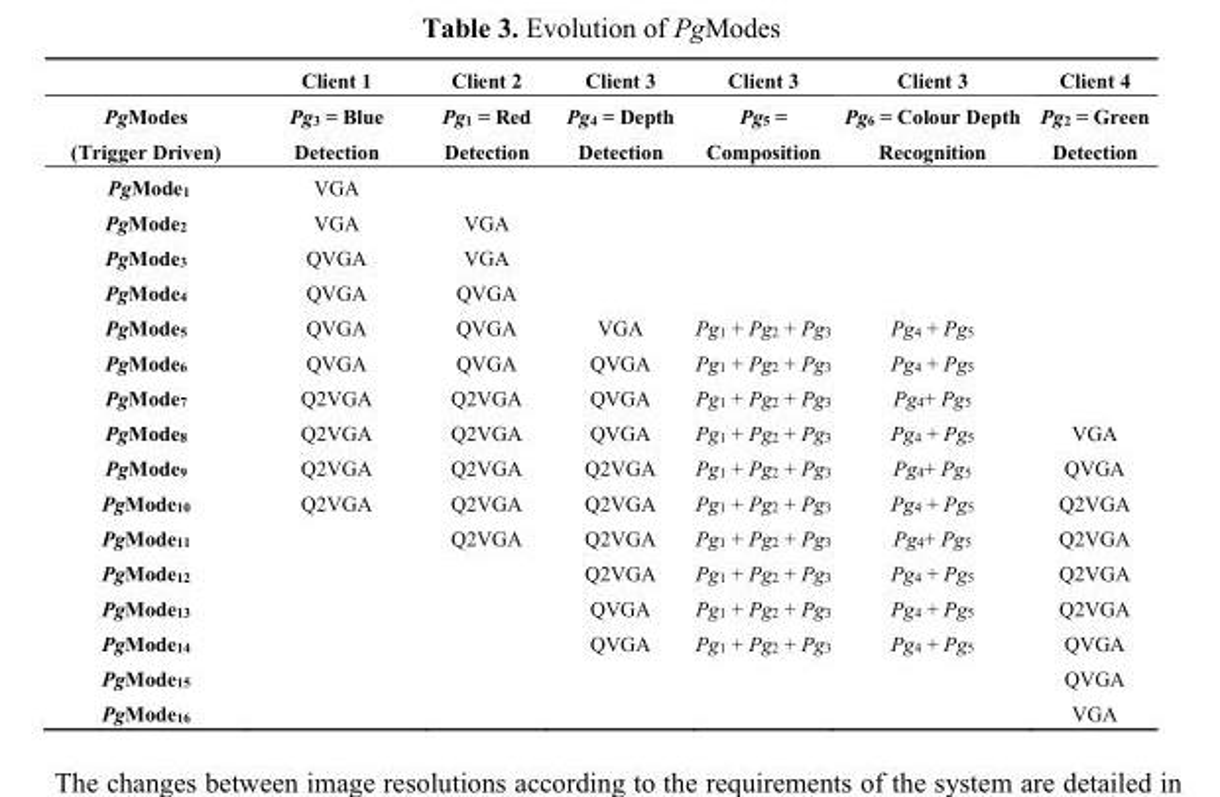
<table><thead><tr><td rowspan="2">PgModes (Trigger Driven)</td><td rowspan="2">Client 1 Pg<sub>3</sub> = Blue Detection</td><td rowspan="2">Client 2 Pg<sub>1</sub> = Red Detection</td><td rowspan="2">Client 3 Pg<sub>4</sub> = Depth Detection</td><td rowspan="2">Client 3 Pg<sub>5</sub> = Composition</td><td rowspan="2">Client 3 Pg<sub>6</sub> = Colour Depth Recognition</td><td rowspan="2">Client 4 Pg<sub>2</sub> = Green Detection</td></tr><tr></tr></thead><tbody><tr><td>PgMode<sub>1</sub></td><td>VGA</td><td></td><td></td><td></td><td></td><td></td></tr><tr><td>PgMode<sub>2</sub></td><td>VGA</td><td>VGA</td><td></td><td></td><td></td><td></td></tr><tr><td>PgMode<sub>3</sub></td><td>QVGA</td><td>VGA</td><td></td><td></td><td></td><td></td></tr><tr><td>PgMode<sub>4</sub></td><td>QVGA</td><td>QVGA</td><td></td><td></td><td></td><td></td></tr><tr><td>PgMode<sub>5</sub></td><td>QVGA</td><td>QVGA</td><td>VGA</td><td>Pg<sub>1</sub> + Pg<sub>2</sub> + Pg<sub>3</sub></td><td>Pg<sub>4</sub> + Pg<sub>5</sub></td><td></td></tr><tr><td>PgMode<sub>6</sub></td><td>QVGA</td><td>QVGA</td><td>QVGA</td><td>Pg<sub>1</sub> + Pg<sub>2</sub> + Pg<sub>3</sub></td><td>Pg<sub>4</sub> + Pg<sub>5</sub></td><td></td></tr><tr><td>PgMode<sub>7</sub></td><td>Q2VGA</td><td>Q2VGA</td><td>QVGA</td><td>Pg<sub>1</sub> + Pg<sub>2</sub> + Pg<sub>3</sub></td><td>Pg<sub>4</sub>+ Pg<sub>5</sub></td><td></td></tr><tr><td>PgMode<sub>8</sub></td><td>Q2VGA</td><td>Q2VGA</td><td>QVGA</td><td>Pg<sub>1</sub> + Pg<sub>2</sub> + Pg<sub>3</sub></td><td>Pg<sub>4</sub> + Pg<sub>5</sub></td><td>VGA</td></tr><tr><td>PgMode<sub>9</sub></td><td>Q2VGA</td><td>Q2VGA</td><td>Q2VGA</td><td>Pg<sub>1</sub> + Pg<sub>2</sub> + Pg<sub>3</sub></td><td>Pg<sub>4</sub>+ Pg<sub>5</sub></td><td>QVGA</td></tr><tr><td>PgMode<sub>10</sub></td><td>Q2VGA</td><td>Q2VGA</td><td>Q2VGA</td><td>Pg<sub>1</sub> + Pg<sub>2</sub> + Pg<sub>3</sub></td><td>Pg<sub>4</sub> + Pg<sub>5</sub></td><td>Q2VGA</td></tr><tr><td>PgMode<sub>11</sub></td><td></td><td>Q2VGA</td><td>Q2VGA</td><td>Pg<sub>1</sub> + Pg<sub>2</sub> + Pg<sub>3</sub></td><td>Pg<sub>4</sub>+ Pg<sub>5</sub></td><td>Q2VGA</td></tr><tr><td>PgMode<sub>12</sub></td><td></td><td></td><td>Q2VGA</td><td>Pg<sub>1</sub> + Pg<sub>2</sub> + Pg<sub>3</sub></td><td>Pg<sub>4</sub> + Pg<sub>5</sub></td><td>Q2VGA</td></tr><tr><td>PgMode<sub>13</sub></td><td></td><td></td><td>QVGA</td><td>Pg<sub>1</sub> + Pg<sub>2</sub> + Pg<sub>3</sub></td><td>Pg<sub>4</sub> + Pg<sub>5</sub></td><td>Q2VGA</td></tr><tr><td>PgMode<sub>14</sub></td><td></td><td></td><td>QVGA</td><td>Pg<sub>1</sub> + Pg<sub>2</sub> + Pg<sub>3</sub></td><td>Pg<sub>4</sub> + Pg<sub>5</sub></td><td>QVGA</td></tr><tr><td>PgMode<sub>15</sub></td><td></td><td></td><td></td><td></td><td></td><td>QVGA</td></tr><tr><td>PgMode<sub>16</sub></td><td></td><td></td><td></td><td></td><td></td><td>VGA</td></tr></tbody></table>